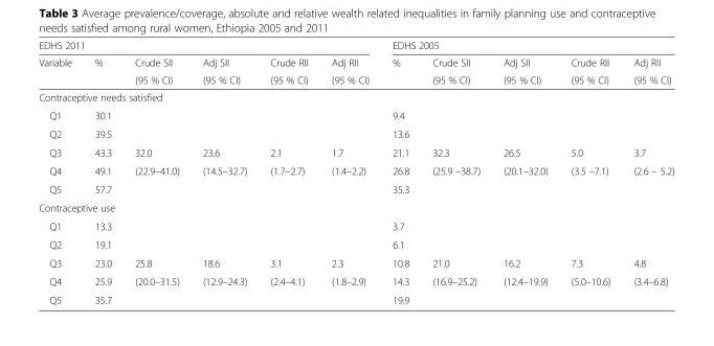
<table><thead><tr><td colspan="6">EDHS 2011</td><td colspan="5">EDHS 2005</td></tr><tr><td rowspan="2">Variable</td><td rowspan="2">%</td><td rowspan="2">Crude SII (95 % CI)</td><td rowspan="2">Adj SII (95 % CI)</td><td rowspan="2">Crude RII (95 % CI)</td><td rowspan="2">Adj RII (95 % CI)</td><td rowspan="2">%</td><td rowspan="2">Crude SII (95 % CI)</td><td rowspan="2">Adj SII (95 % CI)</td><td rowspan="2">Crude RII (95 % CI)</td><td rowspan="2">Adj RII (95 % CI)</td></tr><tr></tr></thead><tbody><tr><td colspan="11">Contraceptive needs satisfied</td></tr><tr><td>Q1</td><td>30.1</td><td></td><td></td><td></td><td></td><td>9.4</td><td></td><td></td><td></td><td></td></tr><tr><td>Q2</td><td>39.5</td><td></td><td></td><td></td><td></td><td>13.6</td><td></td><td></td><td></td><td></td></tr><tr><td>Q3</td><td>43.3</td><td>32.0</td><td>23.6</td><td>2.1</td><td>1.7</td><td>21.1</td><td>32.3</td><td>26.5</td><td>5.0</td><td>3.7</td></tr><tr><td>Q4</td><td>49.1</td><td>(22.9–41.0)</td><td>(14.5–32.7)</td><td>(1.7–2.7)</td><td>(1.4–2.2)</td><td>26.8</td><td>(25.9 –38.7)</td><td>(20.1–32.0)</td><td>(3.5 –7.1)</td><td>(2.6 – 5.2)</td></tr><tr><td>Q5</td><td>57.7</td><td></td><td></td><td></td><td></td><td>35.3</td><td></td><td></td><td></td><td></td></tr><tr><td colspan="11">Contraceptive use</td></tr><tr><td>Q1</td><td>13.3</td><td></td><td></td><td></td><td></td><td>3.7</td><td></td><td></td><td></td><td></td></tr><tr><td>Q2</td><td>19.1</td><td></td><td></td><td></td><td></td><td>6.1</td><td></td><td></td><td></td><td></td></tr><tr><td>Q3</td><td>23.0</td><td>25.8</td><td>18.6</td><td>3.1</td><td>2.3</td><td>10.8</td><td>21.0</td><td>16.2</td><td>7.3</td><td>4.8</td></tr><tr><td>Q4</td><td>25.9</td><td>(20.0–31.5)</td><td>(12.9–24.3)</td><td>(2.4–4.1)</td><td>(1.8–2.9)</td><td>14.3</td><td>(16.9–25.2)</td><td>(12.4–19.9)</td><td>(5.0–10.6)</td><td>(3.4–6.8)</td></tr><tr><td>Q5</td><td>35.7</td><td></td><td></td><td></td><td></td><td>19.9</td><td></td><td></td><td></td><td></td></tr></tbody></table>